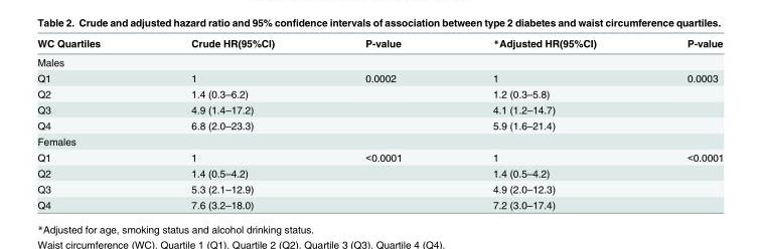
<table><thead><tr><td>WC Quartiles</td><td>Crude HR(95%CI)</td><td>P-value</td><td>*Adjusted HR(95%CI)</td><td>P-value</td></tr></thead><tbody><tr><td colspan="5">Males</td></tr><tr><td>Q1</td><td>1</td><td>0.0002</td><td>1</td><td>0.0003</td></tr><tr><td>Q2</td><td>1.4 (0.3–6.2)</td><td></td><td>1.2 (0.3–5.8)</td><td></td></tr><tr><td>Q3</td><td>4.9 (1.4–17.2)</td><td></td><td>4.1 (1.2–14.7)</td><td></td></tr><tr><td>Q4</td><td>6.8 (2.0–23.3)</td><td></td><td>5.9 (1.6–21.4)</td><td></td></tr><tr><td colspan="5">Females</td></tr><tr><td>Q1</td><td>1</td><td>&lt;0.0001</td><td>1</td><td>&lt;0.0001</td></tr><tr><td>Q2</td><td>1.4 (0.5–4.2)</td><td></td><td>1.4 (0.5–4.2)</td><td></td></tr><tr><td>Q3</td><td>5.3 (2.1–12.9)</td><td></td><td>4.9 (2.0–12.3)</td><td></td></tr><tr><td>Q4</td><td>7.6 (3.2–18.0)</td><td></td><td>7.2 (3.0–17.4)</td><td></td></tr></tbody></table>